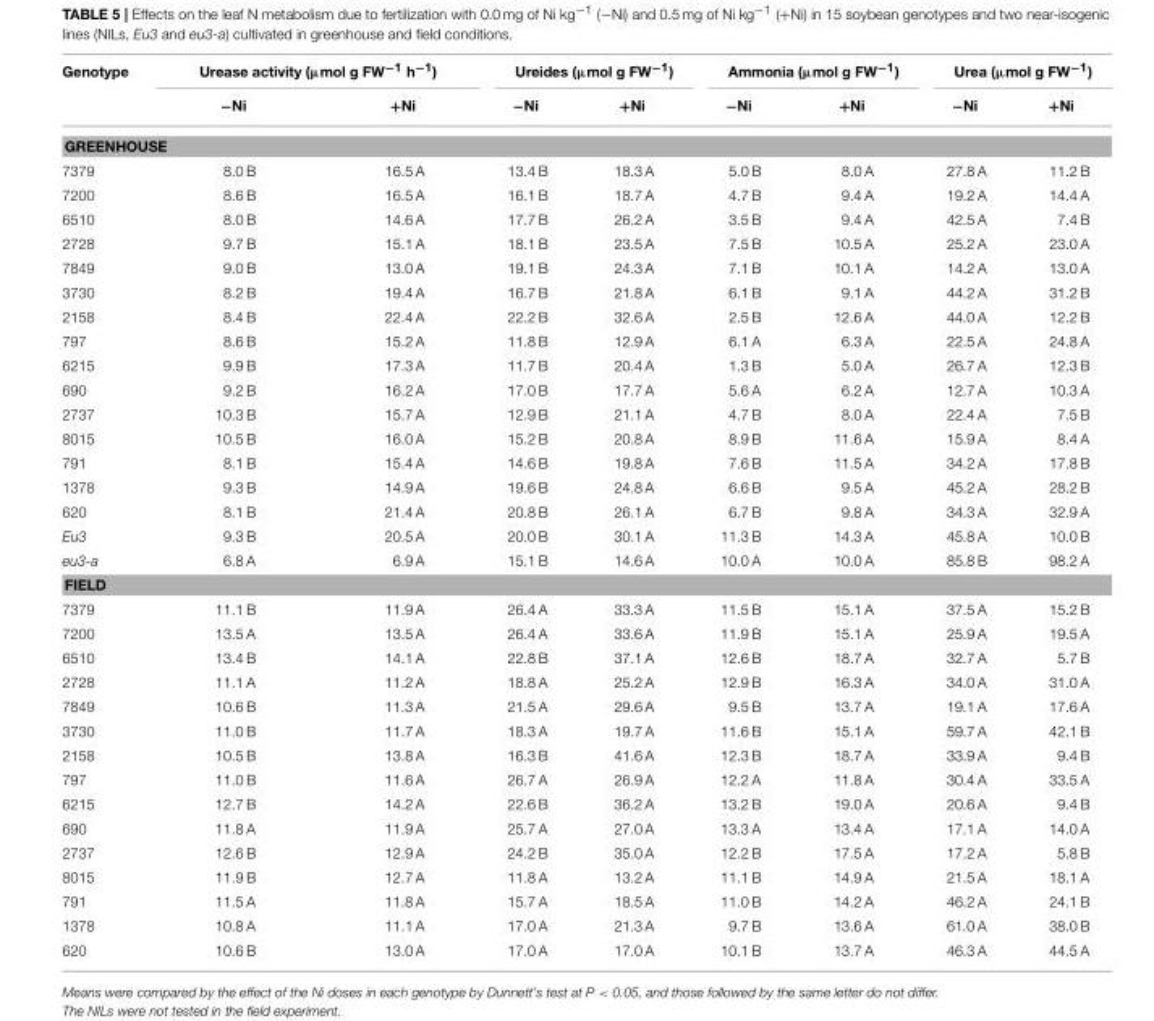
<table><thead><tr><td rowspan="2">Genotype</td><td colspan="2">Urease activity (µmol g FW<sup>−1</sup> h<sup>−1</sup>)</td><td colspan="2">Ureides (µmol g FW<sup>−1</sup>)</td><td colspan="2">Ammonia (µmol g FW<sup>−1</sup>)</td><td colspan="2">Urea (µmol g FW<sup>−1</sup>)</td></tr><tr><td>−Ni</td><td>+Ni</td><td>−Ni</td><td>+Ni</td><td>−Ni</td><td>+Ni</td><td>−Ni</td><td>+Ni</td></tr></thead><tbody><tr><td colspan="9">GREENHOUSE</td></tr><tr><td>7379</td><td>8.0 B</td><td>16.5 A</td><td>13.4 B</td><td>18.3 A</td><td>5.0 B</td><td>8.0 A</td><td>27.8 A</td><td>11.2 B</td></tr><tr><td>7200</td><td>8.6 B</td><td>16.5 A</td><td>16.1 B</td><td>18.7 A</td><td>4.7 B</td><td>9.4 A</td><td>19.2 A</td><td>14.4 A</td></tr><tr><td>6510</td><td>8.0 B</td><td>14.6 A</td><td>17.7 B</td><td>26.2 A</td><td>3.5 B</td><td>9.4 A</td><td>42.5 A</td><td>7.4 B</td></tr><tr><td>2728</td><td>9.7 B</td><td>15.1 A</td><td>18.1 B</td><td>23.5 A</td><td>7.5 B</td><td>10.5 A</td><td>25.2 A</td><td>23.0 A</td></tr><tr><td>7849</td><td>9.0 B</td><td>13.0 A</td><td>19.1 B</td><td>24.3 A</td><td>7.1 B</td><td>10.1 A</td><td>14.2 A</td><td>13.0 A</td></tr><tr><td>3730</td><td>8.2 B</td><td>19.4 A</td><td>16.7 B</td><td>21.8 A</td><td>6.1 B</td><td>9.1 A</td><td>44.2 A</td><td>31.2 B</td></tr><tr><td>2158</td><td>8.4 B</td><td>22.4 A</td><td>22.2 B</td><td>32.6 A</td><td>2.5 B</td><td>12.6 A</td><td>44.0 A</td><td>12.2 B</td></tr><tr><td>797</td><td>8.6 B</td><td>15.2 A</td><td>11.8 B</td><td>12.9 A</td><td>6.1 A</td><td>6.3 A</td><td>22.5 A</td><td>24.8 A</td></tr><tr><td>6215</td><td>9.9 B</td><td>17.3 A</td><td>11.7 B</td><td>20.4 A</td><td>1.3 B</td><td>5.0 A</td><td>26.7 A</td><td>12.3 B</td></tr><tr><td>690</td><td>9.2 B</td><td>16.2 A</td><td>17.0 B</td><td>17.7 A</td><td>5.6 A</td><td>6.2 A</td><td>12.7 A</td><td>10.3 A</td></tr><tr><td>2737</td><td>10.3 B</td><td>15.7 A</td><td>12.9 B</td><td>21.1 A</td><td>4.7 B</td><td>8.0 A</td><td>22.4 A</td><td>7.5 B</td></tr><tr><td>8015</td><td>10.5 B</td><td>16.0 A</td><td>15.2 B</td><td>20.8 A</td><td>8.9 B</td><td>11.6 A</td><td>15.9 A</td><td>8.4 A</td></tr><tr><td>791</td><td>8.1 B</td><td>15.4 A</td><td>14.6 B</td><td>19.8 A</td><td>7.6 B</td><td>11.5 A</td><td>34.2 A</td><td>17.8 B</td></tr><tr><td>1378</td><td>9.3 B</td><td>14.9 A</td><td>19.6 B</td><td>24.8 A</td><td>6.6 B</td><td>9.5 A</td><td>45.2 A</td><td>28.2 B</td></tr><tr><td>620</td><td>8.1 B</td><td>21.4 A</td><td>20.8 B</td><td>26.1 A</td><td>6.7 B</td><td>9.8 A</td><td>34.3 A</td><td>32.9 A</td></tr><tr><td>Eu3</td><td>9.3 B</td><td>20.5 A</td><td>20.0 B</td><td>30.1 A</td><td>11.3 B</td><td>14.3 A</td><td>45.8 A</td><td>10.0 B</td></tr><tr><td>eu3-a</td><td>6.8 A</td><td>6.9 A</td><td>15.1 B</td><td>14.6 A</td><td>10.0 A</td><td>10.0 A</td><td>85.8 B</td><td>98.2 A</td></tr><tr><td colspan="9">FIELD</td></tr><tr><td>7379</td><td>11.1 B</td><td>11.9 A</td><td>26.4 A</td><td>33.3 A</td><td>11.5 B</td><td>15.1 A</td><td>37.5 A</td><td>15.2 B</td></tr><tr><td>7200</td><td>13.5 A</td><td>13.5 A</td><td>26.4 A</td><td>33.6 A</td><td>11.9 B</td><td>15.1 A</td><td>25.9 A</td><td>19.5 A</td></tr><tr><td>6510</td><td>13.4 B</td><td>14.1 A</td><td>22.8 B</td><td>37.1 A</td><td>12.6 B</td><td>18.7 A</td><td>32.7 A</td><td>5.7 B</td></tr><tr><td>2728</td><td>11.1 A</td><td>11.2 A</td><td>18.8 A</td><td>25.2 A</td><td>12.9 B</td><td>16.3 A</td><td>34.0 A</td><td>31.0 A</td></tr><tr><td>7849</td><td>10.6 B</td><td>11.3 A</td><td>21.5 A</td><td>29.6 A</td><td>9.5 B</td><td>13.7 A</td><td>19.1 A</td><td>17.6 A</td></tr><tr><td>3730</td><td>11.0 B</td><td>11.7 A</td><td>18.3 A</td><td>19.7 A</td><td>11.6 B</td><td>15.1 A</td><td>59.7 A</td><td>42.1 B</td></tr><tr><td>2158</td><td>10.5 B</td><td>13.8 A</td><td>16.3 B</td><td>41.6 A</td><td>12.3 B</td><td>18.7 A</td><td>33.9 A</td><td>9.4 B</td></tr><tr><td>797</td><td>11.0 B</td><td>11.6 A</td><td>26.7 A</td><td>26.9 A</td><td>12.2 A</td><td>11.8 A</td><td>30.4 A</td><td>33.5 A</td></tr><tr><td>6215</td><td>12.7 B</td><td>14.2 A</td><td>22.6 B</td><td>36.2 A</td><td>13.2 B</td><td>19.0 A</td><td>20.6 A</td><td>9.4 B</td></tr><tr><td>690</td><td>11.8 A</td><td>11.9 A</td><td>25.7 A</td><td>27.0 A</td><td>13.3 A</td><td>13.4 A</td><td>17.1 A</td><td>14.0 A</td></tr><tr><td>2737</td><td>12.6 B</td><td>12.9 A</td><td>24.2 B</td><td>35.0 A</td><td>12.2 B</td><td>17.5 A</td><td>17.2 A</td><td>5.8 B</td></tr><tr><td>8015</td><td>11.9 B</td><td>12.7 A</td><td>11.8 A</td><td>13.2 A</td><td>11.1 B</td><td>14.9 A</td><td>21.5 A</td><td>18.1 A</td></tr><tr><td>791</td><td>11.5 A</td><td>11.8 A</td><td>15.7 A</td><td>18.5 A</td><td>11.0 B</td><td>14.2 A</td><td>46.2 A</td><td>24.1 B</td></tr><tr><td>1378</td><td>10.8 A</td><td>11.1 A</td><td>17.0 A</td><td>21.3 A</td><td>9.7 B</td><td>13.6 A</td><td>61.0 A</td><td>38.0 B</td></tr><tr><td>620</td><td>10.6 B</td><td>13.0 A</td><td>17.0 A</td><td>17.0 A</td><td>10.1 B</td><td>13.7 A</td><td>46.3 A</td><td>44.5 A</td></tr></tbody></table>